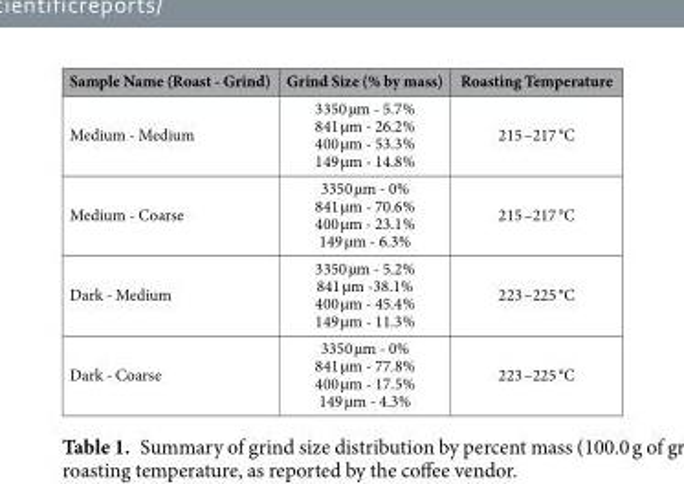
<table><thead><tr><td>Sample Name (Roast - Grind)</td><td>Grind Size (% by mass)</td><td>Roasting Temperature</td></tr></thead><tbody><tr><td>Medium - Medium</td><td>3350 µm - 5.7% 841 µm - 26.2% 400 µm - 53.3% 149 µm - 14.8%</td><td>215 –217 °C</td></tr><tr><td>Medium - Coarse</td><td>3350 µm - 0% 841 µm - 70.6% 400 µm - 23.1% 149 µm - 6.3%</td><td>215 –217 °C</td></tr><tr><td>Dark - Medium</td><td>3350 µm - 5.2% 841 µm -38.1% 400 µm - 45.4% 149 µm - 11.3%</td><td>223 –225 °C</td></tr><tr><td>Dark - Coarse</td><td>3350 µm - 0% 841 µm - 77.8% 400 µm - 17.5% 149 µm - 4.3%</td><td>223 –225 °C</td></tr></tbody></table>